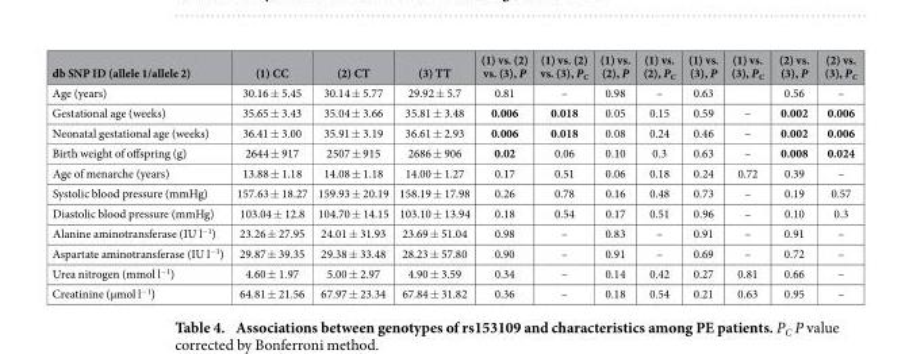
<table><thead><tr><td>db SNP ID (allele 1/allele 2)</td><td>(1) CC</td><td>(2) CT</td><td>(3) TT</td><td>(1) vs. (2) vs. (3), P</td><td>(1) vs. (2) vs. (3), P<sub>C</sub></td><td>(1) vs. (2), P</td><td>(1) vs. (2), P<sub>C</sub></td><td>(1) vs. (3), P</td><td>(1) vs. (3), P<sub>C</sub></td><td>(2) vs. (3), P</td><td>(2) vs. (3), P<sub>C</sub></td></tr></thead><tbody><tr><td>Age (years)</td><td>30.16 ± 5.45</td><td>30.14 ± 5.77</td><td>29.92 ± 5.7</td><td>0.81</td><td>–</td><td>0.98</td><td>–</td><td>0.63</td><td></td><td>0.56</td><td>–</td></tr><tr><td>Gestational age (weeks)</td><td>35.65 ± 3.43</td><td>35.04 ± 3.66</td><td>35.81 ± 3.48</td><td>0.006</td><td>0.018</td><td>0.05</td><td>0.15</td><td>0.59</td><td>–</td><td>0.002</td><td>0.006</td></tr><tr><td>Neonatal gestational age (weeks)</td><td>36.41 ± 3.00</td><td>35.91 ± 3.19</td><td>36.61 ± 2.93</td><td>0.006</td><td>0.018</td><td>0.08</td><td>0.24</td><td>0.46</td><td>–</td><td>0.002</td><td>0.006</td></tr><tr><td>Birth weight of offspring (g)</td><td>2644 ± 917</td><td>2507 ± 915</td><td>2686 ± 906</td><td>0.02</td><td>0.06</td><td>0.10</td><td>0.3</td><td>0.63</td><td>–</td><td>0.008</td><td>0.024</td></tr><tr><td>Age of menarche (years)</td><td>13.88 ± 1.18</td><td>14.08 ± 1.18</td><td>14.00 ± 1.27</td><td>0.17</td><td>0.51</td><td>0.06</td><td>0.18</td><td>0.24</td><td>0.72</td><td>0.39</td><td>–</td></tr><tr><td>Systolic blood pressure (mmHg)</td><td>157.63 ± 18.27</td><td>159.93 ± 20.19</td><td>158.19 ± 17.98</td><td>0.26</td><td>0.78</td><td>0.16</td><td>0.48</td><td>0.73</td><td>–</td><td>0.19</td><td>0.57</td></tr><tr><td>Diastolic blood pressure (mmHg)</td><td>103.04 ± 12.8</td><td>104.70 ± 14.15</td><td>103.10 ± 13.94</td><td>0.18</td><td>0.54</td><td>0.17</td><td>0.51</td><td>0.96</td><td>–</td><td>0.10</td><td>0.3</td></tr><tr><td>Alanine aminotransferase (IU l<sup>−1</sup>)</td><td>23.26 ± 27.95</td><td>24.01 ± 31.93</td><td>23.69 ± 51.04</td><td>0.98</td><td>–</td><td>0.83</td><td>–</td><td>0.91</td><td>–</td><td>0.91</td><td>–</td></tr><tr><td>Aspartate aminotransferase (IU l<sup>−1</sup>)</td><td>29.87 ± 39.35</td><td>29.38 ± 33.48</td><td>28.23 ± 57.80</td><td>0.90</td><td>–</td><td>0.91</td><td>–</td><td>0.69</td><td>–</td><td>0.72</td><td>–</td></tr><tr><td>Urea nitrogen (mmol l<sup>−1</sup>)</td><td>4.60 ± 1.97</td><td>5.00 ± 2.97</td><td>4.90 ± 3.59</td><td>0.34</td><td>–</td><td>0.14</td><td>0.42</td><td>0.27</td><td>0.81</td><td>0.66</td><td>–</td></tr><tr><td>Creatinine (μmol l<sup>−1</sup>)</td><td>64.81 ± 21.56</td><td>67.97 ± 23.34</td><td>67.84 ± 31.82</td><td>0.36</td><td>–</td><td>0.18</td><td>0.54</td><td>0.21</td><td>0.63</td><td>0.95</td><td>–</td></tr></tbody></table>